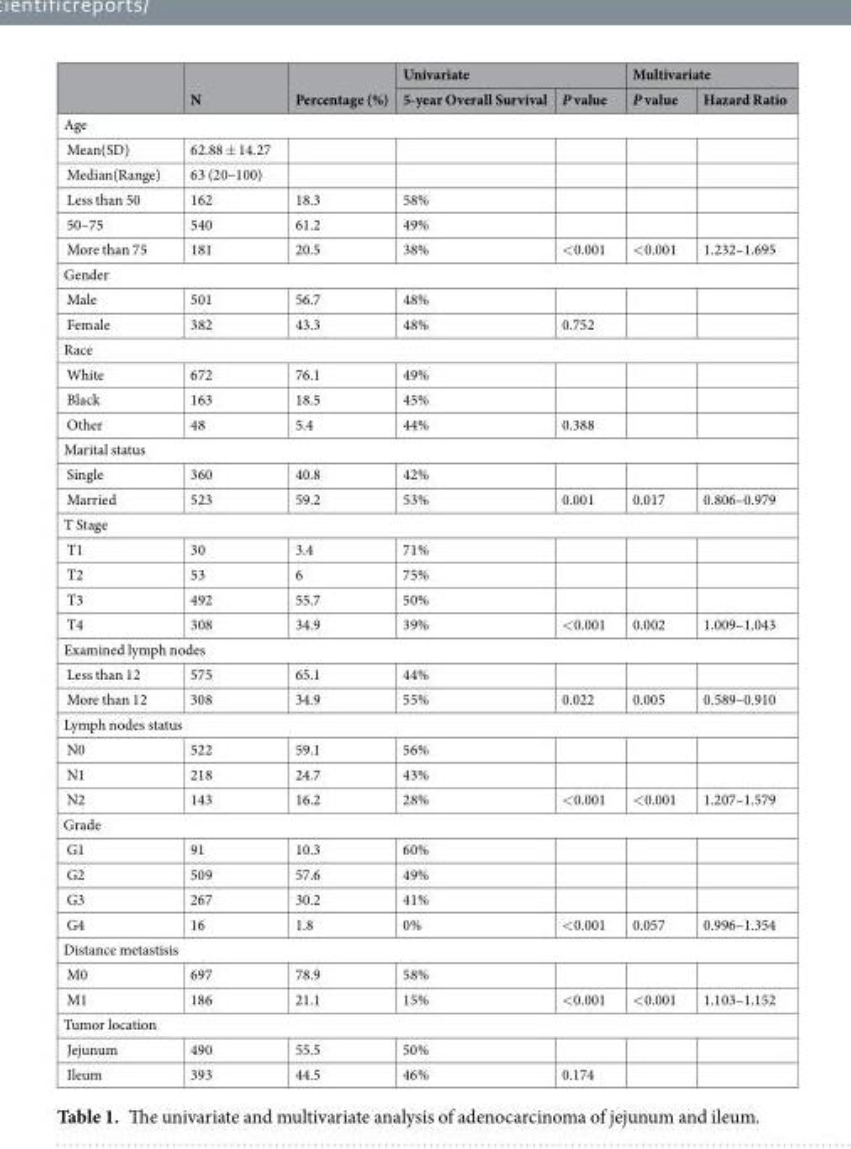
<table><thead><tr><td rowspan="2"></td><td rowspan="2">N</td><td rowspan="2">Percentage (%)</td><td colspan="2">Univariate</td><td colspan="2">Multivariate</td></tr><tr><td>5-year Overall Survival</td><td>P value</td><td>P value</td><td>Hazard Ratio</td></tr></thead><tbody><tr><td colspan="7">Age</td></tr><tr><td>Mean(SD)</td><td>62.88 ± 14.27</td><td></td><td></td><td></td><td></td><td></td></tr><tr><td>Median(Range)</td><td>63 (20–100)</td><td></td><td></td><td></td><td></td><td></td></tr><tr><td>Less than 50</td><td>162</td><td>18.3</td><td>58%</td><td></td><td></td><td></td></tr><tr><td>50–75</td><td>540</td><td>61.2</td><td>49%</td><td></td><td></td><td></td></tr><tr><td>More than 75</td><td>181</td><td>20.5</td><td>38%</td><td>&lt;0.001</td><td>&lt;0.001</td><td>1.232–1.695</td></tr><tr><td colspan="7">Gender</td></tr><tr><td>Male</td><td>501</td><td>56.7</td><td>48%</td><td></td><td></td><td></td></tr><tr><td>Female</td><td>382</td><td>43.3</td><td>48%</td><td>0.752</td><td></td><td></td></tr><tr><td colspan="7">Race</td></tr><tr><td>White</td><td>672</td><td>76.1</td><td>49%</td><td></td><td></td><td></td></tr><tr><td>Black</td><td>163</td><td>18.5</td><td>45%</td><td></td><td></td><td></td></tr><tr><td>Other</td><td>48</td><td>5.4</td><td>44%</td><td>0.388</td><td></td><td></td></tr><tr><td colspan="7">Marital status</td></tr><tr><td>Single</td><td>360</td><td>40.8</td><td>42%</td><td></td><td></td><td></td></tr><tr><td>Married</td><td>523</td><td>59.2</td><td>53%</td><td>0.001</td><td>0.017</td><td>0.806–0.979</td></tr><tr><td colspan="7">T Stage</td></tr><tr><td>T1</td><td>30</td><td>3.4</td><td>71%</td><td></td><td></td><td></td></tr><tr><td>T2</td><td>53</td><td>6</td><td>75%</td><td></td><td></td><td></td></tr><tr><td>T3</td><td>492</td><td>55.7</td><td>50%</td><td></td><td></td><td></td></tr><tr><td>T4</td><td>308</td><td>34.9</td><td>39%</td><td>&lt;0.001</td><td>0.002</td><td>1.009–1.043</td></tr><tr><td colspan="7">Examined lymph nodes</td></tr><tr><td>Less than 12</td><td>575</td><td>65.1</td><td>44%</td><td></td><td></td><td></td></tr><tr><td>More than 12</td><td>308</td><td>34.9</td><td>55%</td><td>0.022</td><td>0.005</td><td>0.589–0.910</td></tr><tr><td colspan="7">Lymph nodes status</td></tr><tr><td>N0</td><td>522</td><td>59.1</td><td>56%</td><td></td><td></td><td></td></tr><tr><td>N1</td><td>218</td><td>24.7</td><td>43%</td><td></td><td></td><td></td></tr><tr><td>N2</td><td>143</td><td>16.2</td><td>28%</td><td>&lt;0.001</td><td>&lt;0.001</td><td>1.207–1.579</td></tr><tr><td colspan="7">Grade</td></tr><tr><td>G1</td><td>91</td><td>10.3</td><td>60%</td><td></td><td></td><td></td></tr><tr><td>G2</td><td>509</td><td>57.6</td><td>49%</td><td></td><td></td><td></td></tr><tr><td>G3</td><td>267</td><td>30.2</td><td>41%</td><td></td><td></td><td></td></tr><tr><td>G4</td><td>16</td><td>1.8</td><td>0%</td><td>&lt;0.001</td><td>0.057</td><td>0.996–1.354</td></tr><tr><td colspan="7">Distance metastisis</td></tr><tr><td>M0</td><td>697</td><td>78.9</td><td>58%</td><td></td><td></td><td></td></tr><tr><td>M1</td><td>186</td><td>21.1</td><td>15%</td><td>&lt;0.001</td><td>&lt;0.001</td><td>1.103–1.152</td></tr><tr><td colspan="7">Tumor location</td></tr><tr><td>Jejunum</td><td>490</td><td>55.5</td><td>50%</td><td></td><td></td><td></td></tr><tr><td>Ileum</td><td>393</td><td>44.5</td><td>46%</td><td>0.174</td><td></td><td></td></tr></tbody></table>